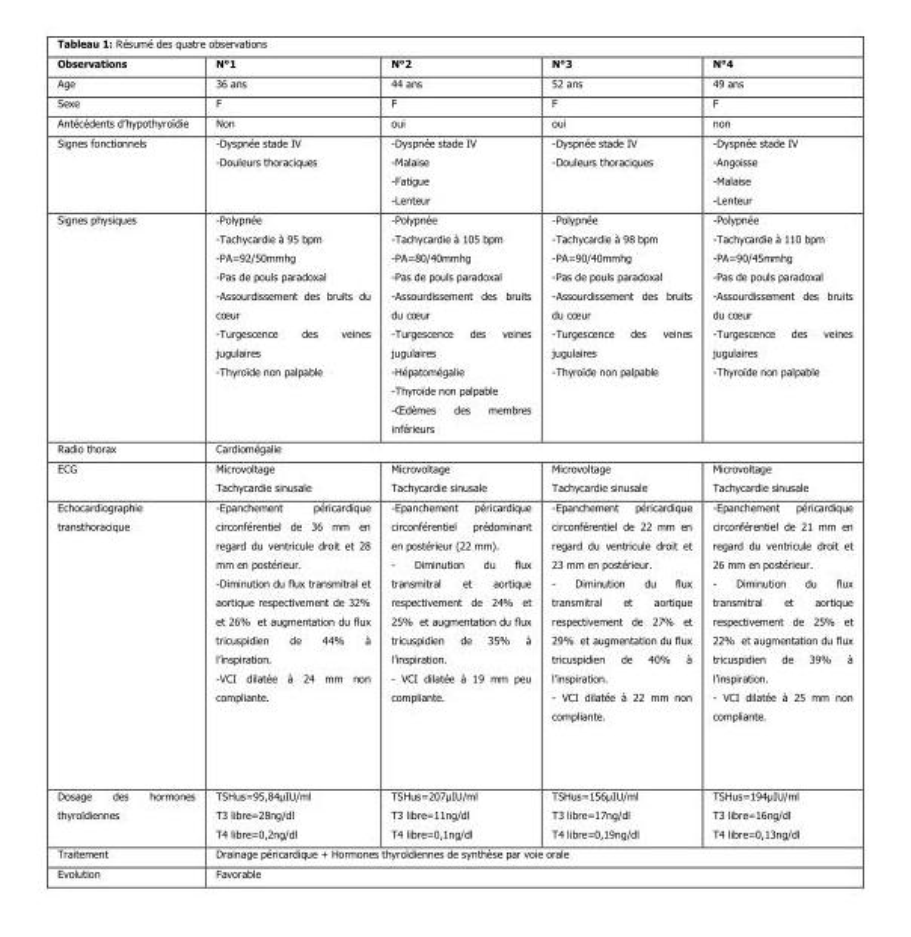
<table><thead><tr><td>Observations</td><td>N°1</td><td>N°2</td><td>N°3</td><td>N°4</td></tr></thead><tbody><tr><td>Age</td><td>36 ans</td><td>44 ans</td><td>52 ans</td><td>49 ans</td></tr><tr><td>Sexe</td><td>F</td><td>F</td><td>F</td><td>F</td></tr><tr><td>Antécédents d’hypothyroïdie</td><td>Non</td><td>oui</td><td>oui</td><td>non</td></tr><tr><td>Signes fonctionnels</td><td>-Dyspnée stade IV -Douleurs thoraciques</td><td>-Dyspnée stade IV -Malaise -Fatigue -Lenteur</td><td>-Dyspnée stade IV -Douleurs thoraciques</td><td>-Dyspnée stade IV -Angoisse -Malaise -Lenteur</td></tr><tr><td>Signes physiques</td><td>-Polypnée -Tachycardie à 95 bpm -PA=92/50mmhg -Pas de pouls paradoxal -Assourdissement des bruits du cœur -Turgescence des veines jugulaires -Thyroïde non palpable</td><td>-Polypnée -Tachycardie à 105 bpm -PA=80/40mmhg -Pas de pouls paradoxal -Assourdissement des bruits du cœur -Turgescence des veines jugulaires -Hépatomégalie -Thyroïde non palpable -Œdèmes des membres inférieurs</td><td>-Polypnée -Tachycardie à 98 bpm -PA=90/40mmhg -Pas de pouls paradoxal -Assourdissement des bruits du cœur -Turgescence des veines jugulaires -Thyroïde non palpable</td><td>-Polypnée -Tachycardie à 110 bpm -PA=90/45mmhg -Pas de pouls paradoxal -Assourdissement des bruits du cœur -Turgescence des veines jugulaires -Thyroïde non palpable</td></tr><tr><td>Radio thorax</td><td colspan="4">Cardiomégalie</td></tr><tr><td>ECG</td><td>Microvoltage Tachycardie sinusale</td><td>Microvoltage Tachycardie sinusale</td><td>Microvoltage Tachycardie sinusale</td><td>Microvoltage Tachycardie sinusale</td></tr><tr><td>Echocardiographie transthoracique</td><td>-Epanchement péricardique circonférentiel de 36 mm en regard du ventricule droit et 28 mm en postérieur. -Diminution du flux transmitral et aortique respectivement de 32% et 26% et augmentation du flux tricuspidien de 44% à l’inspiration. -VCI dilatée à 24 mm non compliante.</td><td>-Epanchement péricardique circonférentiel prédominant en postérieur (22 mm). - Diminution du flux transmitral et aortique respectivement de 24% et 25% et augmentation du flux tricuspidien de 35% à l’inspiration. - VCI dilatée à 19 mm peu compliante.</td><td>-Epanchement péricardique circonférentiel de 22 mm en regard du ventricule droit et 23 mm en postérieur. - Diminution du flux transmitral et aortique respectivement de 27% et 29% et augmentation du flux tricuspidien de 40% à l’inspiration. - VCI dilatée à 22 mm non compliante.</td><td>-Epanchement péricardique circonférentiel de 21 mm en regard du ventricule droit et 26 mm en postérieur. - Diminution du flux transmitral et aortique respectivement de 25% et 22% et augmentation du flux tricuspidien de 39% à l’inspiration. - VCI dilatée à 25 mm non compliante.</td></tr><tr><td>Dosage des hormones thyroïdiennes</td><td>TSHus=95,84µIU/ml T3 libre=28ng/dl T4 libre=0,2ng/dl</td><td>TSHus=207µIU/ml T3 libre=11ng/dl T4 libre=0,1ng/dl</td><td>TSHus=156µIU/ml T3 libre=17ng/dl T4 libre=0,19ng/dl</td><td>TSHus=194µIU/ml T3 libre=16ng/dl T4 libre=0,13ng/dl</td></tr><tr><td>Traitement</td><td colspan="4">Drainage péricardique + Hormones thyroïdiennes de synthèse par voie orale</td></tr><tr><td>Evolution</td><td colspan="4">Favorable</td></tr></tbody></table>